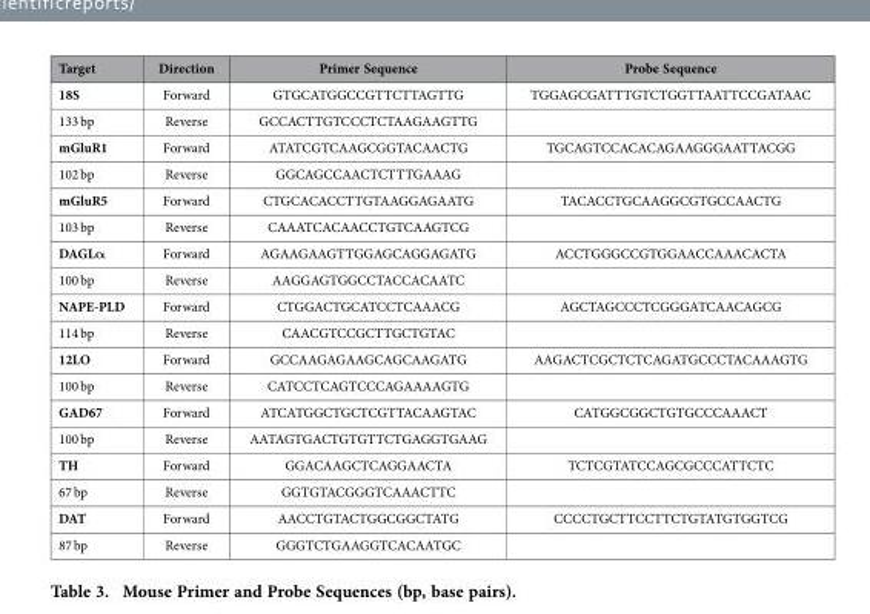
<table><thead><tr><td>Target</td><td>Direction</td><td>Primer Sequence</td><td>Probe Sequence</td></tr></thead><tbody><tr><td>18S</td><td>Forward</td><td>GTGCATGGCCGTTCTTAGTTG</td><td>TGGAGCGATTTGTCTGGTTAATTCCGATAAC</td></tr><tr><td>133 bp</td><td>Reverse</td><td>GCCACTTGTCCCTCTAAGAAGTTG</td><td></td></tr><tr><td>mGluR1</td><td>Forward</td><td>ATATCGTCAAGCGGTACAACTG</td><td>TGCAGTCCACACAGAAGGGAATTACGG</td></tr><tr><td>102 bp</td><td>Reverse</td><td>GGCAGCCAACTCTTTGAAAG</td><td></td></tr><tr><td>mGluR5</td><td>Forward</td><td>CTGCACACCTTGTAAGGAGAATG</td><td>TACACCTGCAAGGCGTGCCAACTG</td></tr><tr><td>103 bp</td><td>Reverse</td><td>CAAATCACAACCTGTCAAGTCG</td><td></td></tr><tr><td>DAGLα</td><td>Forward</td><td>AGAAGAAGTTGGAGCAGGAGATG</td><td>ACCTGGGCCGTGGAACCAAACACTA</td></tr><tr><td>100 bp</td><td>Reverse</td><td>AAGGAGTGGCCTACCACAATC</td><td></td></tr><tr><td>NAPE-PLD</td><td>Forward</td><td>CTGGACTGCATCCTCAAACG</td><td>AGCTAGCCCTCGGGATCAACAGCG</td></tr><tr><td>114 bp</td><td>Reverse</td><td>CAACGTCCGCTTGCTGTAC</td><td></td></tr><tr><td>12LO</td><td>Forward</td><td>GCCAAGAGAAGCAGCAAGATG</td><td>AAGACTCGCTCTCAGATGCCCTACAAAGTG</td></tr><tr><td>100 bp</td><td>Reverse</td><td>CATCCTCAGTCCCAGAAAAGTG</td><td></td></tr><tr><td>GAD67</td><td>Forward</td><td>ATCATGGCTGCTCGTTACAAGTAC</td><td>CATGGCGGCTGTGCCCAAACT</td></tr><tr><td>100 bp</td><td>Reverse</td><td>AATAGTGACTGTGTTCTGAGGTGAAG</td><td></td></tr><tr><td>TH</td><td>Forward</td><td>GGACAAGCTCAGGAACTA</td><td>TCTCGTATCCAGCGCCCATTCTC</td></tr><tr><td>67 bp</td><td>Reverse</td><td>GGTGTACGGGTCAAACTTC</td><td></td></tr><tr><td>DAT</td><td>Forward</td><td>AACCTGTACTGGCGGCTATG</td><td>CCCCTGCTTCCTTCTGTATGTGGTCG</td></tr><tr><td>87 bp</td><td>Reverse</td><td>GGGTCTGAAGGTCACAATGC</td><td></td></tr></tbody></table>